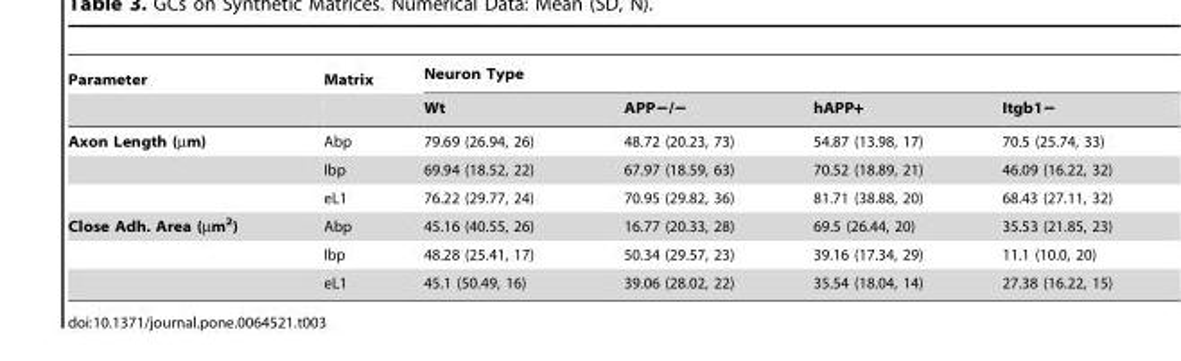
<table><thead><tr><td rowspan="2">Parameter</td><td rowspan="2">Matrix</td><td colspan="4">Neuron Type</td></tr><tr><td>Wt</td><td>APP−/−</td><td>hAPP+</td><td>Itgb1−</td></tr></thead><tbody><tr><td rowspan="3">Axon Length (µm)</td><td>Abp</td><td>79.69 (26.94, 26)</td><td>48.72 (20.23, 73)</td><td>54.87 (13.98, 17)</td><td>70.5 (25.74, 33)</td></tr><tr><td>Ibp</td><td>69.94 (18.52, 22)</td><td>67.97 (18.59, 63)</td><td>70.52 (18.89, 21)</td><td>46.09 (16.22, 32)</td></tr><tr><td>eL1</td><td>76.22 (29.77, 24)</td><td>70.95 (29.82, 36)</td><td>81.71 (38.88, 20)</td><td>68.43 (27.11, 32)</td></tr><tr><td rowspan="3">Close Adh. Area (µm<sup>2</sup>)</td><td>Abp</td><td>45.16 (40.55, 26)</td><td>16.77 (20.33, 28)</td><td>69.5 (26.44, 20)</td><td>35.53 (21.85, 23)</td></tr><tr><td>Ibp</td><td>48.28 (25.41, 17)</td><td>50.34 (29.57, 23)</td><td>39.16 (17.34, 29)</td><td>11.1 (10.0, 20)</td></tr><tr><td>eL1</td><td>45.1 (50.49, 16)</td><td>39.06 (28.02, 22)</td><td>35.54 (18.04, 14)</td><td>27.38 (16.22, 15)</td></tr></tbody></table>